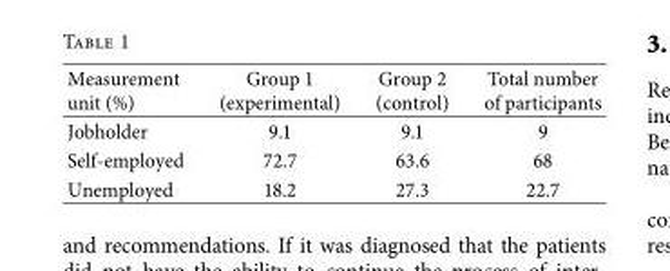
<table><thead><tr><td>Measurement unit (%)</td><td>Group 1 (experimental)</td><td>Group 2 (control)</td><td>Total number of participants</td></tr></thead><tbody><tr><td>Jobholder</td><td>9.1</td><td>9.1</td><td>9</td></tr><tr><td>Self-employed</td><td>72.7</td><td>63.6</td><td>68</td></tr><tr><td>Unemployed</td><td>18.2</td><td>27.3</td><td>22.7</td></tr></tbody></table>